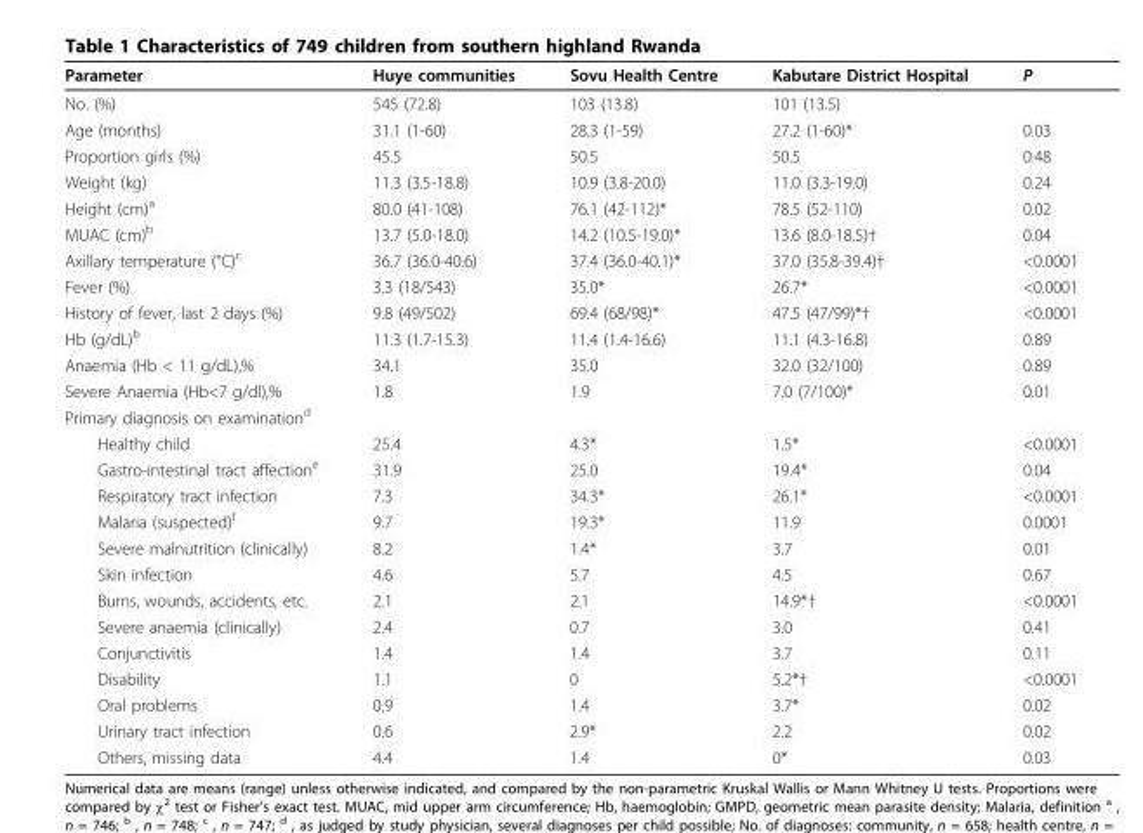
<table><thead><tr><td>Parameter</td><td>Huye communities</td><td>Sovu Health Centre</td><td>Kabutare District Hospital</td><td>P</td></tr></thead><tbody><tr><td>No. (%)</td><td>545 (72.8)</td><td>103 (13.8)</td><td>101 (13.5)</td><td></td></tr><tr><td>Age (months)</td><td>31.1 (1-60)</td><td>28.3 (1-59)</td><td>27.2 (1-60)*</td><td>0.03</td></tr><tr><td>Proportion girls (%)</td><td>45.5</td><td>50.5</td><td>50.5</td><td>0.48</td></tr><tr><td>Weight (kg)</td><td>11.3 (3.5-18.8)</td><td>10.9 (3.8-20.0)</td><td>11.0 (3.3-19.0)</td><td>0.24</td></tr><tr><td>Height (cm)<sup>a</sup></td><td>80.0 (41-108)</td><td>76.1 (42-112)*</td><td>78.5 (52-110)</td><td>0.02</td></tr><tr><td>MUAC (cm)<sup>b</sup></td><td>13.7 (5.0-18.0)</td><td>14.2 (10.5-19.0)*</td><td>13.6 (8.0-18.5)†</td><td>0.04</td></tr><tr><td>Axillary temperature (°C)<sup>c</sup></td><td>36.7 (36.0-40.6)</td><td>37.4 (36.0-40.1)*</td><td>37.0 (35.8-39.4)†</td><td>&lt;0.0001</td></tr><tr><td>Fever (%)</td><td>3.3 (18/543)</td><td>35.0*</td><td>26.7*</td><td>&lt;0.0001</td></tr><tr><td>History of fever, last 2 days (%)</td><td>9.8 (49/502)</td><td>69.4 (68/98)*</td><td>47.5 (47/99)*†</td><td>&lt;0.0001</td></tr><tr><td>Hb (g/dL)<sup>b</sup></td><td>11.3 (1.7-15.3)</td><td>11.4 (1.4-16.6)</td><td>11.1 (4.3-16.8)</td><td>0.89</td></tr><tr><td>Anaemia (Hb &lt; 11 g/dL),%</td><td>34.1</td><td>35.0</td><td>32.0 (32/100)</td><td>0.89</td></tr><tr><td>Severe Anaemia (Hb&lt;7 g/dl),%</td><td>1.8</td><td>1.9</td><td>7.0 (7/100)*</td><td>0.01</td></tr><tr><td colspan="5">Primary diagnosis on examination<sup>d</sup></td></tr><tr><td>Healthy child</td><td>25.4</td><td>4.3*</td><td>1.5*</td><td>&lt;0.0001</td></tr><tr><td>Gastro-intestinal tract affection<sup>e</sup></td><td>31.9</td><td>25.0</td><td>19.4*</td><td>0.04</td></tr><tr><td>Respiratory tract infection</td><td>7.3</td><td>34.3*</td><td>26.1*</td><td>&lt;0.0001</td></tr><tr><td>Malaria (suspected)<sup>f</sup></td><td>9.7</td><td>19.3*</td><td>11.9</td><td>0.0001</td></tr><tr><td>Severe malnutrition (clinically)</td><td>8.2</td><td>1.4*</td><td>3.7</td><td>0.01</td></tr><tr><td>Skin infection</td><td>4.6</td><td>5.7</td><td>4.5</td><td>0.67</td></tr><tr><td>Burns, wounds, accidents, etc.</td><td>2.1</td><td>2.1</td><td>14.9*†</td><td>&lt;0.0001</td></tr><tr><td>Severe anaemia (clinically)</td><td>2.4</td><td>0.7</td><td>3.0</td><td>0.41</td></tr><tr><td>Conjunctivitis</td><td>1.4</td><td>1.4</td><td>3.7</td><td>0.11</td></tr><tr><td>Disability</td><td>1.1</td><td>0</td><td>5.2*†</td><td>&lt;0.0001</td></tr><tr><td>Oral problems</td><td>0.9</td><td>1.4</td><td>3.7*</td><td>0.02</td></tr><tr><td>Urinary tract infection</td><td>0.6</td><td>2.9*</td><td>2.2</td><td>0.02</td></tr><tr><td>Others, missing data</td><td>4.4</td><td>1.4</td><td>0*</td><td>0.03</td></tr></tbody></table>